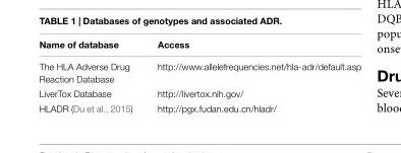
<table><thead><tr><td>Name of database</td><td>Access</td></tr></thead><tbody><tr><td>The HLA Adverse Drug Reaction Database</td><td>http://www.allelefrequencies.net/hla-adr/default.asp</td></tr><tr><td>LiverTox Database</td><td>http://livertox.nih.gov/</td></tr><tr><td>HLADR (Du et al., 2015)</td><td>http://pgx.fudan.edu.cn/hladr/</td></tr></tbody></table>